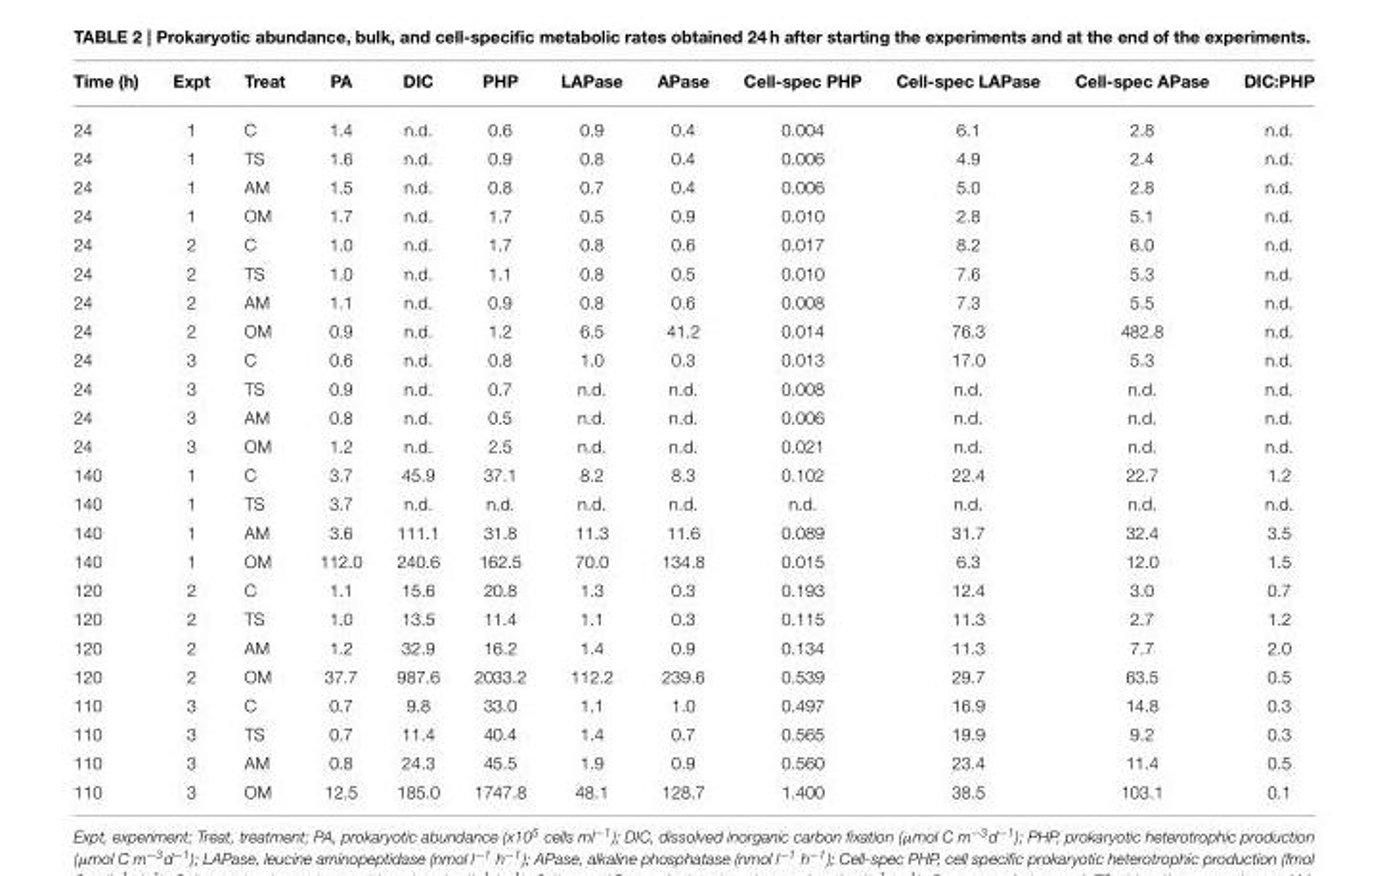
<table><thead><tr><td>Time (h)</td><td>Expt</td><td>Treat</td><td>PA</td><td>DIC</td><td>PHP</td><td>LAPase</td><td>APase</td><td>Cell-spec PHP</td><td>Cell-spec LAPase</td><td>Cell-spec APase</td><td>DIC:PHP</td></tr></thead><tbody><tr><td>24</td><td>1</td><td>C</td><td>1.4</td><td>n.d.</td><td>0.6</td><td>0.9</td><td>0.4</td><td>0.004</td><td>6.1</td><td>2.8</td><td>n.d.</td></tr><tr><td>24</td><td>1</td><td>TS</td><td>1.6</td><td>n.d.</td><td>0.9</td><td>0.8</td><td>0.4</td><td>0.006</td><td>4.9</td><td>2.4</td><td>n.d.</td></tr><tr><td>24</td><td>1</td><td>AM</td><td>1.5</td><td>n.d.</td><td>0.8</td><td>0.7</td><td>0.4</td><td>0.006</td><td>5.0</td><td>2.8</td><td>n.d.</td></tr><tr><td>24</td><td>1</td><td>OM</td><td>1.7</td><td>n.d.</td><td>1.7</td><td>0.5</td><td>0.9</td><td>0.010</td><td>2.8</td><td>5.1</td><td>n.d.</td></tr><tr><td>24</td><td>2</td><td>C</td><td>1.0</td><td>n.d.</td><td>1.7</td><td>0.8</td><td>0.6</td><td>0.017</td><td>8.2</td><td>6.0</td><td>n.d.</td></tr><tr><td>24</td><td>2</td><td>TS</td><td>1.0</td><td>n.d.</td><td>1.1</td><td>0.8</td><td>0.5</td><td>0.010</td><td>7.6</td><td>5.3</td><td>n.d.</td></tr><tr><td>24</td><td>2</td><td>AM</td><td>1.1</td><td>n.d.</td><td>0.9</td><td>0.8</td><td>0.6</td><td>0.008</td><td>7.3</td><td>5.5</td><td>n.d.</td></tr><tr><td>24</td><td>2</td><td>OM</td><td>0.9</td><td>n.d.</td><td>1.2</td><td>6.5</td><td>41.2</td><td>0.014</td><td>76.3</td><td>482.8</td><td>n.d.</td></tr><tr><td>24</td><td>3</td><td>C</td><td>0.6</td><td>n.d.</td><td>0.8</td><td>1.0</td><td>0.3</td><td>0.013</td><td>17.0</td><td>5.3</td><td>n.d.</td></tr><tr><td>24</td><td>3</td><td>TS</td><td>0.9</td><td>n.d.</td><td>0.7</td><td>n.d.</td><td>n.d.</td><td>0.008</td><td>n.d.</td><td>n.d.</td><td>n.d.</td></tr><tr><td>24</td><td>3</td><td>AM</td><td>0.8</td><td>n.d.</td><td>0.5</td><td>n.d.</td><td>n.d.</td><td>0.006</td><td>n.d.</td><td>n.d.</td><td>n.d.</td></tr><tr><td>24</td><td>3</td><td>OM</td><td>1.2</td><td>n.d.</td><td>2.5</td><td>n.d.</td><td>n.d.</td><td>0.021</td><td>n.d.</td><td>n.d.</td><td>n.d.</td></tr><tr><td>140</td><td>1</td><td>C</td><td>3.7</td><td>45.9</td><td>37.1</td><td>8.2</td><td>8.3</td><td>0.102</td><td>22.4</td><td>22.7</td><td>1.2</td></tr><tr><td>140</td><td>1</td><td>TS</td><td>3.7</td><td>n.d.</td><td>n.d.</td><td>n.d.</td><td>n.d.</td><td>n.d.</td><td>n.d.</td><td>n.d.</td><td>n.d.</td></tr><tr><td>140</td><td>1</td><td>AM</td><td>3.6</td><td>111.1</td><td>31.8</td><td>11.3</td><td>11.6</td><td>0.089</td><td>31.7</td><td>32.4</td><td>3.5</td></tr><tr><td>140</td><td>1</td><td>OM</td><td>112.0</td><td>240.6</td><td>162.5</td><td>70.0</td><td>134.8</td><td>0.015</td><td>6.3</td><td>12.0</td><td>1.5</td></tr><tr><td>120</td><td>2</td><td>C</td><td>1.1</td><td>15.6</td><td>20.8</td><td>1.3</td><td>0.3</td><td>0.193</td><td>12.4</td><td>3.0</td><td>0.7</td></tr><tr><td>120</td><td>2</td><td>TS</td><td>1.0</td><td>13.5</td><td>11.4</td><td>1.1</td><td>0.3</td><td>0.115</td><td>11.3</td><td>2.7</td><td>1.2</td></tr><tr><td>120</td><td>2</td><td>AM</td><td>1.2</td><td>32.9</td><td>16.2</td><td>1.4</td><td>0.9</td><td>0.134</td><td>11.3</td><td>7.7</td><td>2.0</td></tr><tr><td>120</td><td>2</td><td>OM</td><td>37.7</td><td>987.6</td><td>2033.2</td><td>112.2</td><td>239.6</td><td>0.539</td><td>29.7</td><td>63.5</td><td>0.5</td></tr><tr><td>110</td><td>3</td><td>C</td><td>0.7</td><td>9.8</td><td>33.0</td><td>1.1</td><td>1.0</td><td>0.497</td><td>16.9</td><td>14.8</td><td>0.3</td></tr><tr><td>110</td><td>3</td><td>TS</td><td>0.7</td><td>11.4</td><td>40.4</td><td>1.4</td><td>0.7</td><td>0.565</td><td>19.9</td><td>9.2</td><td>0.3</td></tr><tr><td>110</td><td>3</td><td>AM</td><td>0.8</td><td>24.3</td><td>45.5</td><td>1.9</td><td>0.9</td><td>0.560</td><td>23.4</td><td>11.4</td><td>0.5</td></tr><tr><td>110</td><td>3</td><td>OM</td><td>12.5</td><td>185.0</td><td>1747.8</td><td>48.1</td><td>128.7</td><td>1.400</td><td>38.5</td><td>103.1</td><td>0.1</td></tr></tbody></table>